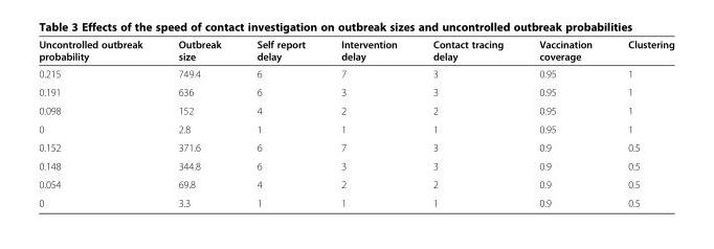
<table><thead><tr><td>Uncontrolled outbreak probability</td><td>Outbreak size</td><td>Self report delay</td><td>Intervention delay</td><td>Contact tracing delay</td><td>Vaccination coverage</td><td>Clustering</td></tr></thead><tbody><tr><td>0.215</td><td>749.4</td><td>6</td><td>7</td><td>3</td><td>0.95</td><td>1</td></tr><tr><td>0.191</td><td>636</td><td>6</td><td>3</td><td>3</td><td>0.95</td><td>1</td></tr><tr><td>0.098</td><td>152</td><td>4</td><td>2</td><td>2</td><td>0.95</td><td>1</td></tr><tr><td>0</td><td>2.8</td><td>1</td><td>1</td><td>1</td><td>0.95</td><td>1</td></tr><tr><td>0.152</td><td>371.6</td><td>6</td><td>7</td><td>3</td><td>0.9</td><td>0.5</td></tr><tr><td>0.148</td><td>344.8</td><td>6</td><td>3</td><td>3</td><td>0.9</td><td>0.5</td></tr><tr><td>0.054</td><td>69.8</td><td>4</td><td>2</td><td>2</td><td>0.9</td><td>0.5</td></tr><tr><td>0</td><td>3.3</td><td>1</td><td>1</td><td>1</td><td>0.9</td><td>0.5</td></tr></tbody></table>